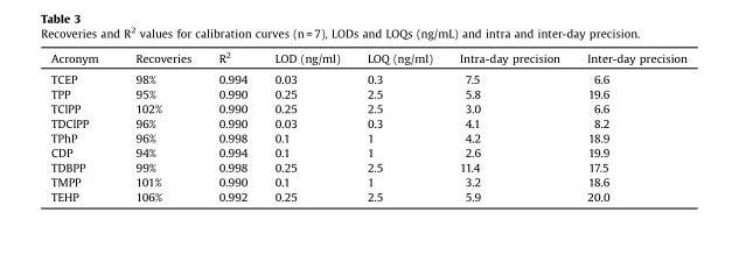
<table><thead><tr><td>Acronym</td><td>Recoveries</td><td>R<sup>2</sup></td><td>LOD (ng/ml)</td><td>LOQ (ng/ml)</td><td>Intra-day precision</td><td>Inter-day precision</td></tr></thead><tbody><tr><td>TCEP</td><td>98%</td><td>0.994</td><td>0.03</td><td>0.3</td><td>7.5</td><td>6.6</td></tr><tr><td>TPP</td><td>95%</td><td>0.990</td><td>0.25</td><td>2.5</td><td>5.8</td><td>19.6</td></tr><tr><td>TClPP</td><td>102%</td><td>0.990</td><td>0.25</td><td>2.5</td><td>3.0</td><td>6.6</td></tr><tr><td>TDClPP</td><td>96%</td><td>0.990</td><td>0.03</td><td>0.3</td><td>4.1</td><td>8.2</td></tr><tr><td>TPhP</td><td>96%</td><td>0.998</td><td>0.1</td><td>1</td><td>4.2</td><td>18.9</td></tr><tr><td>CDP</td><td>94%</td><td>0.994</td><td>0.1</td><td>1</td><td>2.6</td><td>19.9</td></tr><tr><td>TDBPP</td><td>99%</td><td>0.998</td><td>0.25</td><td>2.5</td><td>11.4</td><td>17.5</td></tr><tr><td>TMPP</td><td>101%</td><td>0.990</td><td>0.1</td><td>1</td><td>3.2</td><td>18.6</td></tr><tr><td>TEHP</td><td>106%</td><td>0.992</td><td>0.25</td><td>2.5</td><td>5.9</td><td>20.0</td></tr></tbody></table>